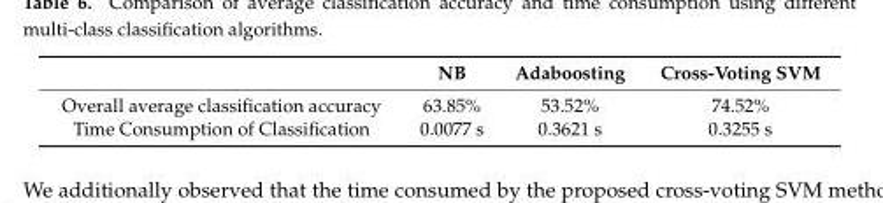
<table><thead><tr><td></td><td>NB</td><td>Adaboosting</td><td>Cross-Voting SVM</td></tr></thead><tbody><tr><td>Overall average classification accuracy</td><td>63.85%</td><td>53.52%</td><td>74.52%</td></tr><tr><td>Time Consumption of Classification</td><td>0.0077 s</td><td>0.3621 s</td><td>0.3255 s</td></tr></tbody></table>